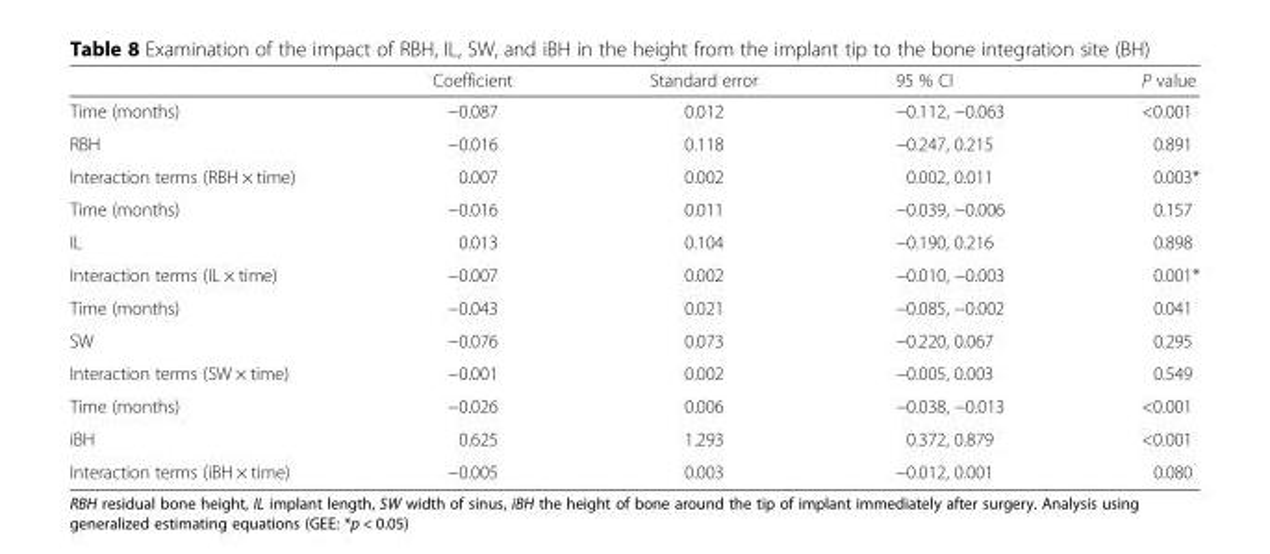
<table><thead><tr><td></td><td>Coefficient</td><td>Standard error</td><td>95 % CI</td><td>P value</td></tr></thead><tbody><tr><td>Time (months)</td><td>−0.087</td><td>0.012</td><td>−0.112, −0.063</td><td>&lt;0.001</td></tr><tr><td>RBH</td><td>−0.016</td><td>0.118</td><td>−0.247, 0.215</td><td>0.891</td></tr><tr><td>Interaction terms (RBH × time)</td><td>0.007</td><td>0.002</td><td>0.002, 0.011</td><td>0.003*</td></tr><tr><td>Time (months)</td><td>−0.016</td><td>0.011</td><td>−0.039, −0.006</td><td>0.157</td></tr><tr><td>IL</td><td>0.013</td><td>0.104</td><td>−0.190, 0.216</td><td>0.898</td></tr><tr><td>Interaction terms (IL × time)</td><td>−0.007</td><td>0.002</td><td>−0.010, −0.003</td><td>0.001*</td></tr><tr><td>Time (months)</td><td>−0.043</td><td>0.021</td><td>−0.085, −0.002</td><td>0.041</td></tr><tr><td>SW</td><td>−0.076</td><td>0.073</td><td>−0.220, 0.067</td><td>0.295</td></tr><tr><td>Interaction terms (SW × time)</td><td>−0.001</td><td>0.002</td><td>−0.005, 0.003</td><td>0.549</td></tr><tr><td>Time (months)</td><td>−0.026</td><td>0.006</td><td>−0.038, −0.013</td><td>&lt;0.001</td></tr><tr><td>iBH</td><td>0.625</td><td>1.293</td><td>0.372, 0.879</td><td>&lt;0.001</td></tr><tr><td>Interaction terms (iBH × time)</td><td>−0.005</td><td>0.003</td><td>−0.012, 0.001</td><td>0.080</td></tr></tbody></table>